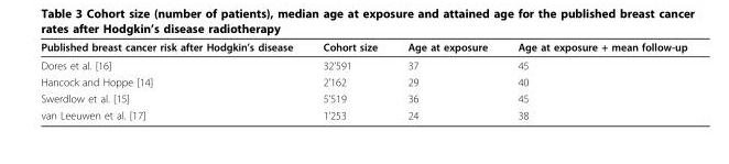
<table><thead><tr><td>Published breast cancer risk after Hodgkin’s disease</td><td>Cohort size</td><td>Age at exposure</td><td>Age at exposure + mean follow-up</td></tr></thead><tbody><tr><td>Dores et al. [16]</td><td>32’591</td><td>37</td><td>45</td></tr><tr><td>Hancock and Hoppe [14]</td><td>2’162</td><td>29</td><td>40</td></tr><tr><td>Swerdlow et al. [15]</td><td>5’519</td><td>36</td><td>45</td></tr><tr><td>van Leeuwen et al. [17]</td><td>1’253</td><td>24</td><td>38</td></tr></tbody></table>